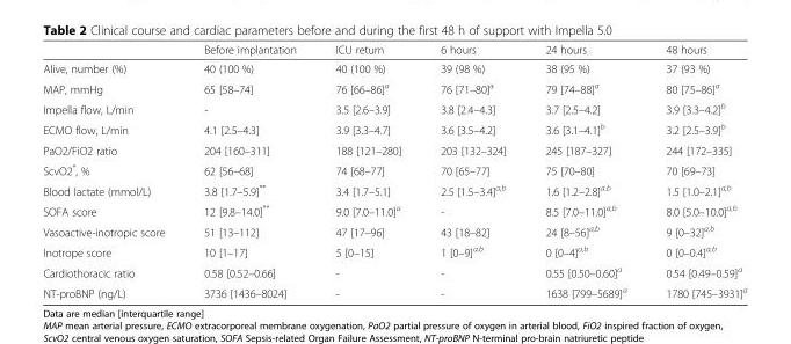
<table><thead><tr><td></td><td>Before implantation</td><td>ICU return</td><td>6 hours</td><td>24 hours</td><td>48 hours</td></tr></thead><tbody><tr><td>Alive, number (%)</td><td>40 (100 %)</td><td>40 (100 %)</td><td>39 (98 %)</td><td>38 (95 %)</td><td>37 (93 %)</td></tr><tr><td>MAP, mmHg</td><td>65 [58–74]</td><td>76 [66–86]<sup>a</sup></td><td>76 [71–80]<sup>a</sup></td><td>79 [74–88]<sup>a</sup></td><td>80 [75–86]<sup>a</sup></td></tr><tr><td>Impella flow, L/min</td><td>-</td><td>3.5 [2.6–3.9]</td><td>3.8 [2.4–4.3]</td><td>3.7 [2.5–4.2]</td><td>3.9 [3.3–4.2]<sup>b</sup></td></tr><tr><td>ECMO flow, L/min</td><td>4.1 [2.5–4.3]</td><td>3.9 [3.3–4.7]</td><td>3.6 [3.5–4.2]</td><td>3.6 [3.1–4.1]<sup>b</sup></td><td>3.2 [2.5–3.9]<sup>b</sup></td></tr><tr><td>PaO2/FiO2 ratio</td><td>204 [160–311]</td><td>188 [121–280]</td><td>203 [132–324]</td><td>245 [187–327]</td><td>244 [172–335]</td></tr><tr><td>ScvO2*, %</td><td>62 [56–68]</td><td>74 [68–77]</td><td>70 [65–77]</td><td>75 [70–80]</td><td>70 [69–73]</td></tr><tr><td>Blood lactate (mmol/L)</td><td>3.8 [1.7–5.9]**</td><td>3.4 [1.7–5.1]</td><td>2.5 [1.5–3.4]<sup>a,b</sup></td><td>1.6 [1.2–2.8]<sup>a,b</sup></td><td>1.5 [1.0–2.1]<sup>a,b</sup></td></tr><tr><td>SOFA score</td><td>12 [9.8–14.0]**</td><td>9.0 [7.0–11.0]<sup>a</sup></td><td>-</td><td>8.5 [7.0–11.0]<sup>a,b</sup></td><td>8.0 [5.0–10.0]<sup>a,b</sup></td></tr><tr><td>Vasoactive-inotropic score</td><td>51 [13–112]</td><td>47 [17–96]</td><td>43 [18–82]</td><td>24 [8–56]<sup>a,b</sup></td><td>9 [0–32]<sup>a,b</sup></td></tr><tr><td>Inotrope score</td><td>10 [1–17]</td><td>5 [0–15]</td><td>1 [0–9]<sup>a,b</sup></td><td>0 [0–4]<sup>a,b</sup></td><td>0 [0–0.4]<sup>a,b</sup></td></tr><tr><td>Cardiothoracic ratio</td><td>0.58 [0.52–0.66]</td><td>-</td><td>-</td><td>0.55 [0.50–0.60]<sup>a</sup></td><td>0.54 [0.49–0.59]<sup>a</sup></td></tr><tr><td>NT-proBNP (ng/L)</td><td>3736 [1436–8024]</td><td>-</td><td>-</td><td>1638 [799–5689]<sup>a</sup></td><td>1780 [745–3931]<sup>a</sup></td></tr></tbody></table>